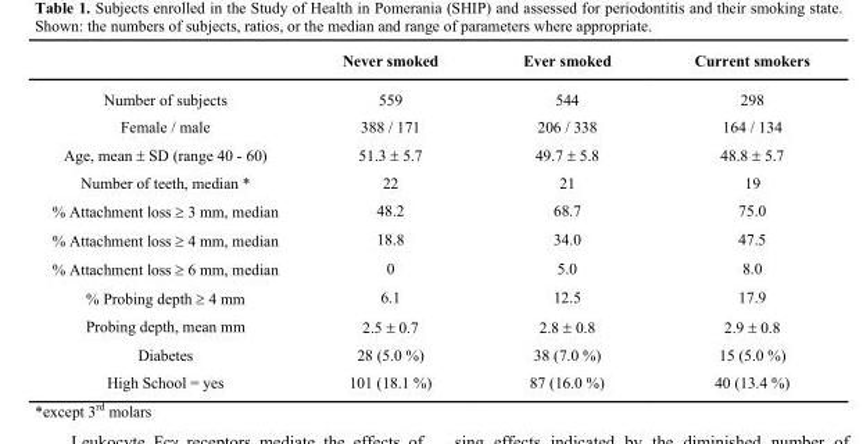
<table><thead><tr><td></td><td>Never smoked</td><td>Ever smoked</td><td>Current smokers</td></tr></thead><tbody><tr><td>Number of subjects</td><td>559</td><td>544</td><td>298</td></tr><tr><td>Female / male</td><td>388 / 171</td><td>206 / 338</td><td>164 / 134</td></tr><tr><td>Age, mean ± SD (range 40 - 60)</td><td>51.3 ± 5.7</td><td>49.7 ± 5.8</td><td>48.8 ± 5.7</td></tr><tr><td>Number of teeth, median *</td><td>22</td><td>21</td><td>19</td></tr><tr><td>% Attachment loss ≥ 3 mm, median</td><td>48.2</td><td>68.7</td><td>75.0</td></tr><tr><td>% Attachment loss ≥ 4 mm, median</td><td>18.8</td><td>34.0</td><td>47.5</td></tr><tr><td>% Attachment loss ≥ 6 mm, median</td><td>0</td><td>5.0</td><td>8.0</td></tr><tr><td>% Probing depth ≥ 4 mm</td><td>6.1</td><td>12.5</td><td>17.9</td></tr><tr><td>Probing depth, mean mm</td><td>2.5 ± 0.7</td><td>2.8 ± 0.8</td><td>2.9 ± 0.8</td></tr><tr><td>Diabetes</td><td>28 (5.0 %)</td><td>38 (7.0 %)</td><td>15 (5.0 %)</td></tr><tr><td>High School = yes</td><td>101 (18.1 %)</td><td>87 (16.0 %)</td><td>40 (13.4 %)</td></tr></tbody></table>